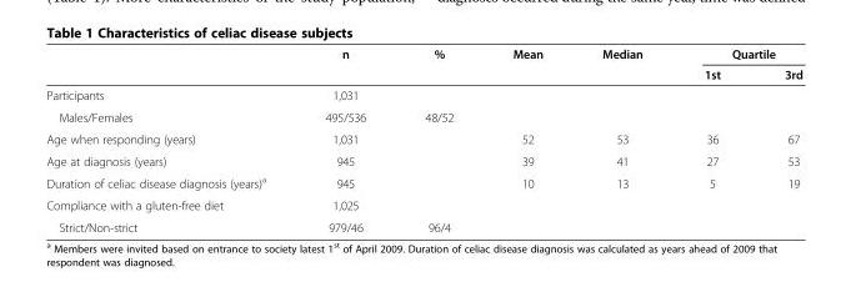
<table><thead><tr><td rowspan="2"></td><td rowspan="2">n</td><td rowspan="2">%</td><td rowspan="2">Mean</td><td rowspan="2">Median</td><td colspan="2">Quartile</td></tr><tr><td>1st</td><td>3rd</td></tr></thead><tbody><tr><td>Participants</td><td>1,031</td><td></td><td></td><td></td><td></td><td></td></tr><tr><td>Males/Females</td><td>495/536</td><td>48/52</td><td></td><td></td><td></td><td></td></tr><tr><td>Age when responding (years)</td><td>1,031</td><td></td><td>52</td><td>53</td><td>36</td><td>67</td></tr><tr><td>Age at diagnosis (years)</td><td>945</td><td></td><td>39</td><td>41</td><td>27</td><td>53</td></tr><tr><td>Duration of celiac disease diagnosis (years)<sup>a</sup></td><td>945</td><td></td><td>10</td><td>13</td><td>5</td><td>19</td></tr><tr><td>Compliance with a gluten-free diet</td><td>1,025</td><td></td><td></td><td></td><td></td><td></td></tr><tr><td>Strict/Non-strict</td><td>979/46</td><td>96/4</td><td></td><td></td><td></td><td></td></tr></tbody></table>